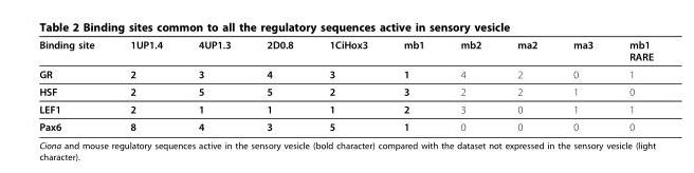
<table><thead><tr><td>Binding site</td><td>1UP1.4</td><td>4UP1.3</td><td>2D0.8</td><td>1CiHox3</td><td>mb1</td><td>mb2</td><td>ma2</td><td>ma3</td><td>mb1 RARE</td></tr></thead><tbody><tr><td>GR</td><td>2</td><td>3</td><td>4</td><td>3</td><td>1</td><td>4</td><td>2</td><td>0</td><td>1</td></tr><tr><td>HSF</td><td>2</td><td>5</td><td>5</td><td>2</td><td>3</td><td>2</td><td>2</td><td>1</td><td>0</td></tr><tr><td>LEF1</td><td>2</td><td>1</td><td>1</td><td>1</td><td>2</td><td>3</td><td>0</td><td>1</td><td>1</td></tr><tr><td>Pax6</td><td>8</td><td>4</td><td>3</td><td>5</td><td>1</td><td>0</td><td>0</td><td>0</td><td>0</td></tr></tbody></table>